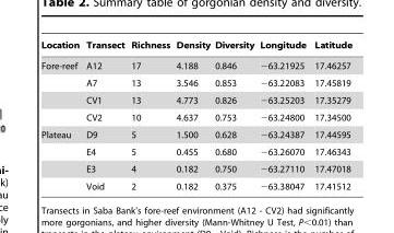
<table><thead><tr><td>Location</td><td>Transect</td><td>Richness</td><td>Density</td><td>Diversity</td><td>Longitude</td><td>Latitude</td></tr></thead><tbody><tr><td rowspan="4">Fore-reef</td><td>A12</td><td>17</td><td>4.188</td><td>0.846</td><td>−63.21925</td><td>17.46257</td></tr><tr><td>A7</td><td>13</td><td>3.546</td><td>0.853</td><td>−63.22083</td><td>17.45819</td></tr><tr><td>CV1</td><td>13</td><td>4.773</td><td>0.826</td><td>−63.25203</td><td>17.35279</td></tr><tr><td>CV2</td><td>10</td><td>4.637</td><td>0.753</td><td>−63.24800</td><td>17.34500</td></tr><tr><td rowspan="4">Plateau</td><td>D9</td><td>5</td><td>1.500</td><td>0.628</td><td>−63.24387</td><td>17.44595</td></tr><tr><td>E4</td><td>5</td><td>0.455</td><td>0.680</td><td>−63.26070</td><td>17.46343</td></tr><tr><td>E3</td><td>4</td><td>0.182</td><td>0.750</td><td>−63.27110</td><td>17.47018</td></tr><tr><td>Void</td><td>2</td><td>0.182</td><td>0.375</td><td>−63.38047</td><td>17.41512</td></tr></tbody></table>